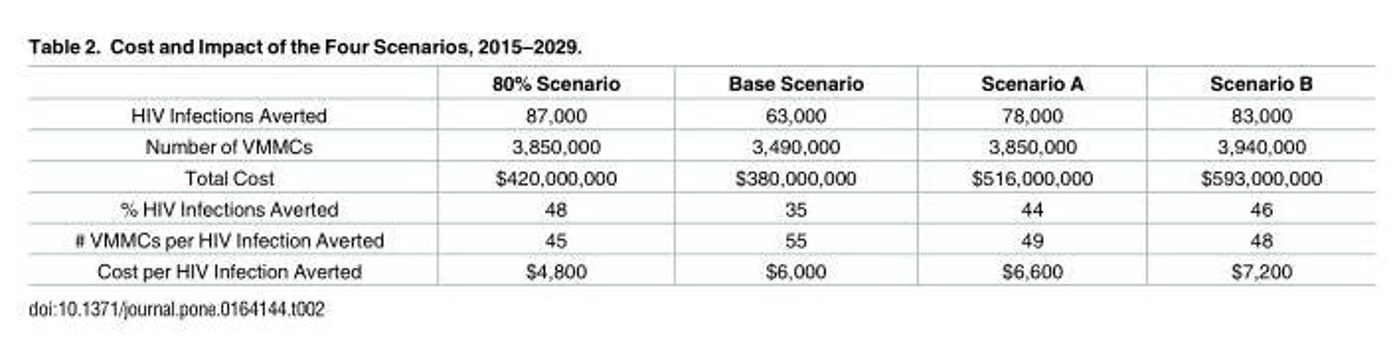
<table><thead><tr><td></td><td>80% Scenario</td><td>Base Scenario</td><td>Scenario A</td><td>Scenario B</td></tr></thead><tbody><tr><td>HIV Infections Averted</td><td>87,000</td><td>63,000</td><td>78,000</td><td>83,000</td></tr><tr><td>Number of VMMCs</td><td>3,850,000</td><td>3,490,000</td><td>3,850,000</td><td>3,940,000</td></tr><tr><td>Total Cost</td><td>$420,000,000</td><td>$380,000,000</td><td>$516,000,000</td><td>$593,000,000</td></tr><tr><td>% HIV Infections Averted</td><td>48</td><td>35</td><td>44</td><td>46</td></tr><tr><td># VMMCs per HIV Infection Averted</td><td>45</td><td>55</td><td>49</td><td>48</td></tr><tr><td>Cost per HIV Infection Averted</td><td>$4,800</td><td>$6,000</td><td>$6,600</td><td>$7,200</td></tr></tbody></table>